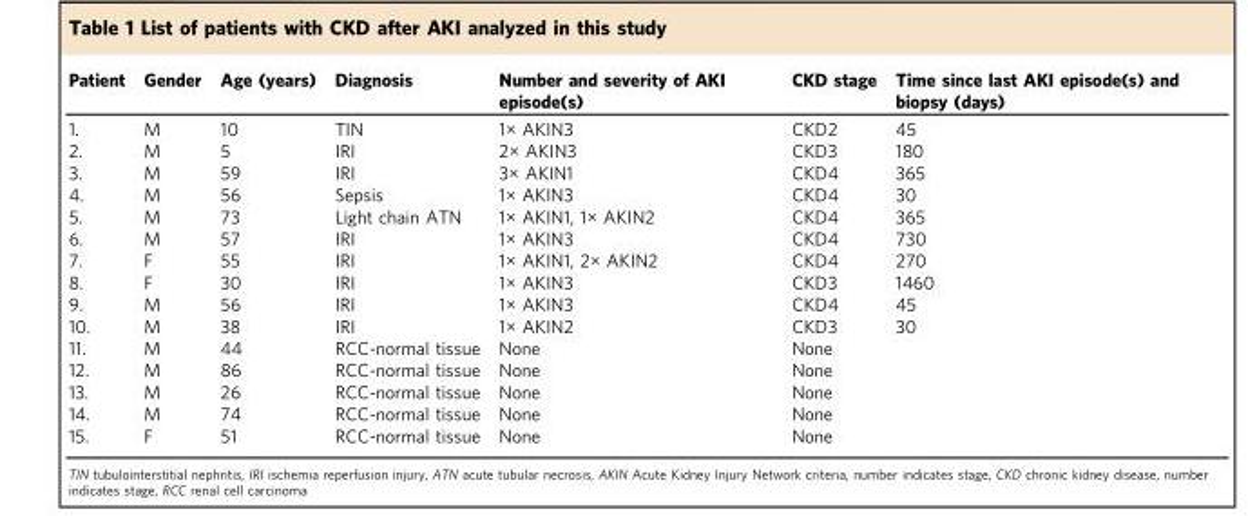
<table><thead><tr><td>Patient</td><td>Gender</td><td>Age (years)</td><td>Diagnosis</td><td>Number and severity of AKI episode(s)</td><td>CKD stage</td><td>Time since last AKI episode(s) and biopsy (days)</td></tr></thead><tbody><tr><td>1.</td><td>M</td><td>10</td><td>TIN</td><td>1× AKIN3</td><td>CKD2</td><td>45</td></tr><tr><td>2.</td><td>M</td><td>5</td><td>IRI</td><td>2× AKIN3</td><td>CKD3</td><td>180</td></tr><tr><td>3.</td><td>M</td><td>59</td><td>IRI</td><td>3× AKIN1</td><td>CKD4</td><td>365</td></tr><tr><td>4.</td><td>M</td><td>56</td><td>Sepsis</td><td>1× AKIN3</td><td>CKD4</td><td>30</td></tr><tr><td>5.</td><td>M</td><td>73</td><td>Light chain ATN</td><td>1× AKIN1, 1× AKIN2</td><td>CKD4</td><td>365</td></tr><tr><td>6.</td><td>M</td><td>57</td><td>IRI</td><td>1× AKIN3</td><td>CKD4</td><td>730</td></tr><tr><td>7.</td><td>F</td><td>55</td><td>IRI</td><td>1× AKIN1, 2× AKIN2</td><td>CKD4</td><td>270</td></tr><tr><td>8.</td><td>F</td><td>30</td><td>IRI</td><td>1× AKIN3</td><td>CKD3</td><td>1460</td></tr><tr><td>9.</td><td>M</td><td>56</td><td>IRI</td><td>1× AKIN3</td><td>CKD4</td><td>45</td></tr><tr><td>10.</td><td>M</td><td>38</td><td>IRI</td><td>1× AKIN2</td><td>CKD3</td><td>30</td></tr><tr><td>11.</td><td>M</td><td>44</td><td>RCC-normal tissue</td><td>None</td><td>None</td><td></td></tr><tr><td>12.</td><td>M</td><td>86</td><td>RCC-normal tissue</td><td>None</td><td>None</td><td></td></tr><tr><td>13.</td><td>M</td><td>26</td><td>RCC-normal tissue</td><td>None</td><td>None</td><td></td></tr><tr><td>14.</td><td>M</td><td>74</td><td>RCC-normal tissue</td><td>None</td><td>None</td><td></td></tr><tr><td>15.</td><td>F</td><td>51</td><td>RCC-normal tissue</td><td>None</td><td>None</td><td></td></tr></tbody></table>